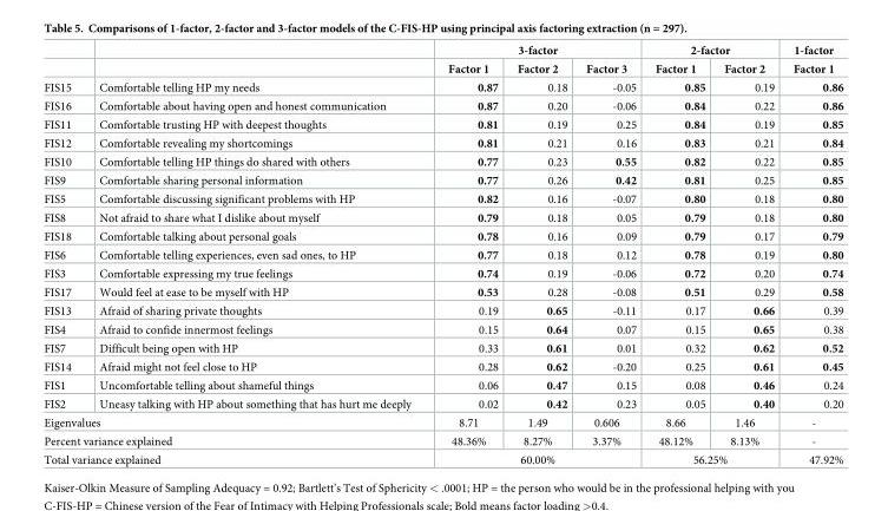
<table><thead><tr><td rowspan="2"></td><td rowspan="2"></td><td colspan="3">3-factor</td><td colspan="2">2-factor</td><td rowspan="2">1-factor Factor 1</td></tr><tr><td>Factor 1</td><td>Factor 2</td><td>Factor 3</td><td>Factor 1</td><td>Factor 2</td></tr></thead><tbody><tr><td>FIS15</td><td>Comfortable telling HP my needs</td><td>0.87</td><td>0.18</td><td>-0.05</td><td>0.85</td><td>0.19</td><td>0.86</td></tr><tr><td>FIS16</td><td>Comfortable about having open and honest communication</td><td>0.87</td><td>0.20</td><td>-0.06</td><td>0.84</td><td>0.22</td><td>0.86</td></tr><tr><td>FIS11</td><td>Comfortable trusting HP with deepest thoughts</td><td>0.81</td><td>0.19</td><td>0.25</td><td>0.84</td><td>0.19</td><td>0.85</td></tr><tr><td>FIS12</td><td>Comfortable revealing my shortcomings</td><td>0.81</td><td>0.21</td><td>0.16</td><td>0.83</td><td>0.21</td><td>0.84</td></tr><tr><td>FIS10</td><td>Comfortable telling HP things do shared with others</td><td>0.77</td><td>0.23</td><td>0.55</td><td>0.82</td><td>0.22</td><td>0.85</td></tr><tr><td>FIS9</td><td>Comfortable sharing personal information</td><td>0.77</td><td>0.26</td><td>0.42</td><td>0.81</td><td>0.25</td><td>0.85</td></tr><tr><td>FIS5</td><td>Comfortable discussing significant problems with HP</td><td>0.82</td><td>0.16</td><td>-0.07</td><td>0.80</td><td>0.18</td><td>0.80</td></tr><tr><td>FIS8</td><td>Not afraid to share what I dislike about myself</td><td>0.79</td><td>0.18</td><td>0.05</td><td>0.79</td><td>0.18</td><td>0.80</td></tr><tr><td>FIS18</td><td>Comfortable talking about personal goals</td><td>0.78</td><td>0.16</td><td>0.09</td><td>0.79</td><td>0.17</td><td>0.79</td></tr><tr><td>FIS6</td><td>Comfortable telling experiences, even sad ones, to HP</td><td>0.77</td><td>0.18</td><td>0.12</td><td>0.78</td><td>0.19</td><td>0.80</td></tr><tr><td>FIS3</td><td>Comfortable expressing my true feelings</td><td>0.74</td><td>0.19</td><td>-0.06</td><td>0.72</td><td>0.20</td><td>0.74</td></tr><tr><td>FIS17</td><td>Would feel at ease to be myself with HP</td><td>0.53</td><td>0.28</td><td>-0.08</td><td>0.51</td><td>0.29</td><td>0.58</td></tr><tr><td>FIS13</td><td>Afraid of sharing private thoughts</td><td>0.19</td><td>0.65</td><td>-0.11</td><td>0.17</td><td>0.66</td><td>0.39</td></tr><tr><td>FIS4</td><td>Afraid to confide innermost feelings</td><td>0.15</td><td>0.64</td><td>0.07</td><td>0.15</td><td>0.65</td><td>0.38</td></tr><tr><td>FIS7</td><td>Difficult being open with HP</td><td>0.33</td><td>0.61</td><td>0.01</td><td>0.32</td><td>0.62</td><td>0.52</td></tr><tr><td>FIS14</td><td>Afraid might not feel close to HP</td><td>0.28</td><td>0.62</td><td>-0.20</td><td>0.25</td><td>0.61</td><td>0.45</td></tr><tr><td>FIS1</td><td>Uncomfortable telling about shameful things</td><td>0.06</td><td>0.47</td><td>0.15</td><td>0.08</td><td>0.46</td><td>0.24</td></tr><tr><td>FIS2</td><td>Uneasy talking with HP about something that has hurt me deeply</td><td>0.02</td><td>0.42</td><td>0.23</td><td>0.05</td><td>0.40</td><td>0.20</td></tr><tr><td colspan="2">Eigenvalues</td><td>8.71</td><td>1.49</td><td>0.606</td><td>8.66</td><td>1.46</td><td>-</td></tr><tr><td colspan="2">Percent variance explained</td><td>48.36%</td><td>8.27%</td><td>3.37%</td><td>48.12%</td><td>8.13%</td><td>-</td></tr><tr><td colspan="2">Total variance explained</td><td colspan="3">60.00%</td><td colspan="2">56.25%</td><td>47.92%</td></tr></tbody></table>